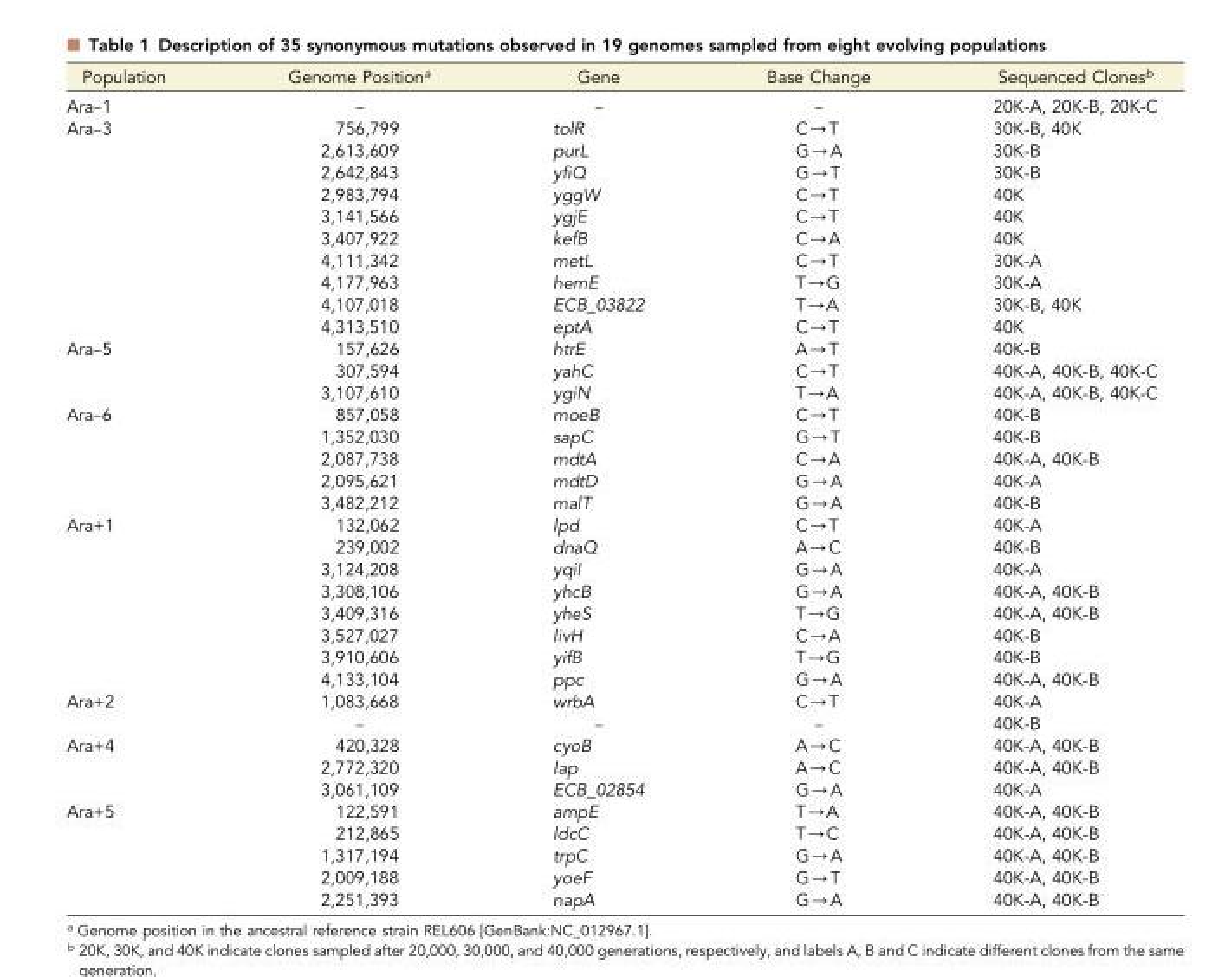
<table><thead><tr><td>Population</td><td>Genome Position<sup>a</sup></td><td>Gene</td><td>Base Change</td><td>Sequenced Clones<sup>b</sup></td></tr></thead><tbody><tr><td>Ara–1</td><td>–</td><td>–</td><td>–</td><td>20K-A, 20K-B, 20K-C</td></tr><tr><td rowspan="10">Ara–3</td><td>756,799</td><td>tolR</td><td>C→T</td><td>30K-B, 40K</td></tr><tr><td>2,613,609</td><td>purL</td><td>G→A</td><td>30K-B</td></tr><tr><td>2,642,843</td><td>yfiQ</td><td>G→T</td><td>30K-B</td></tr><tr><td>2,983,794</td><td>yggW</td><td>C→T</td><td>40K</td></tr><tr><td>3,141,566</td><td>ygjE</td><td>C→T</td><td>40K</td></tr><tr><td>3,407,922</td><td>kefB</td><td>C→A</td><td>40K</td></tr><tr><td>4,111,342</td><td>metL</td><td>C→T</td><td>30K-A</td></tr><tr><td>4,177,963</td><td>hemE</td><td>T→G</td><td>30K-A</td></tr><tr><td>4,107,018</td><td>ECB_03822</td><td>T→A</td><td>30K-B, 40K</td></tr><tr><td>4,313,510</td><td>eptA</td><td>C→T</td><td>40K</td></tr><tr><td rowspan="3">Ara–5</td><td>157,626</td><td>htrE</td><td>A→T</td><td>40K-B</td></tr><tr><td>307,594</td><td>yahC</td><td>C→T</td><td>40K-A, 40K-B, 40K-C</td></tr><tr><td>3,107,610</td><td>ygiN</td><td>T→A</td><td>40K-A, 40K-B, 40K-C</td></tr><tr><td rowspan="5">Ara–6</td><td>857,058</td><td>moeB</td><td>C→T</td><td>40K-B</td></tr><tr><td>1,352,030</td><td>sapC</td><td>G→T</td><td>40K-B</td></tr><tr><td>2,087,738</td><td>mdtA</td><td>C→A</td><td>40K-A, 40K-B</td></tr><tr><td>2,095,621</td><td>mdtD</td><td>G→A</td><td>40K-A</td></tr><tr><td>3,482,212</td><td>malT</td><td>G→A</td><td>40K-B</td></tr><tr><td rowspan="8">Ara+1</td><td>132,062</td><td>lpd</td><td>C→T</td><td>40K-A</td></tr><tr><td>239,002</td><td>dnaQ</td><td>A→C</td><td>40K-B</td></tr><tr><td>3,124,208</td><td>yqiI</td><td>G→A</td><td>40K-A</td></tr><tr><td>3,308,106</td><td>yhcB</td><td>G→A</td><td>40K-A, 40K-B</td></tr><tr><td>3,409,316</td><td>yheS</td><td>T→G</td><td>40K-A, 40K-B</td></tr><tr><td>3,527,027</td><td>livH</td><td>C→A</td><td>40K-B</td></tr><tr><td>3,910,606</td><td>yifB</td><td>T→G</td><td>40K-B</td></tr><tr><td>4,133,104</td><td>ppc</td><td>G→A</td><td>40K-A, 40K-B</td></tr><tr><td rowspan="2">Ara+2</td><td>1,083,668</td><td>wrbA</td><td>C→T</td><td>40K-A</td></tr><tr><td>–</td><td>–</td><td>–</td><td>40K-B</td></tr><tr><td rowspan="3">Ara+4</td><td>420,328</td><td>cyoB</td><td>A→C</td><td>40K-A, 40K-B</td></tr><tr><td>2,772,320</td><td>Iap</td><td>A→C</td><td>40K-A, 40K-B</td></tr><tr><td>3,061,109</td><td>ECB_02854</td><td>G→A</td><td>40K-A</td></tr><tr><td rowspan="5">Ara+5</td><td>122,591</td><td>ampE</td><td>T→A</td><td>40K-A, 40K-B</td></tr><tr><td>212,865</td><td>ldcC</td><td>T→C</td><td>40K-A, 40K-B</td></tr><tr><td>1,317,194</td><td>trpC</td><td>G→A</td><td>40K-A, 40K-B</td></tr><tr><td>2,009,188</td><td>yoeF</td><td>G→T</td><td>40K-A, 40K-B</td></tr><tr><td>2,251,393</td><td>napA</td><td>G→A</td><td>40K-A, 40K-B</td></tr></tbody></table>